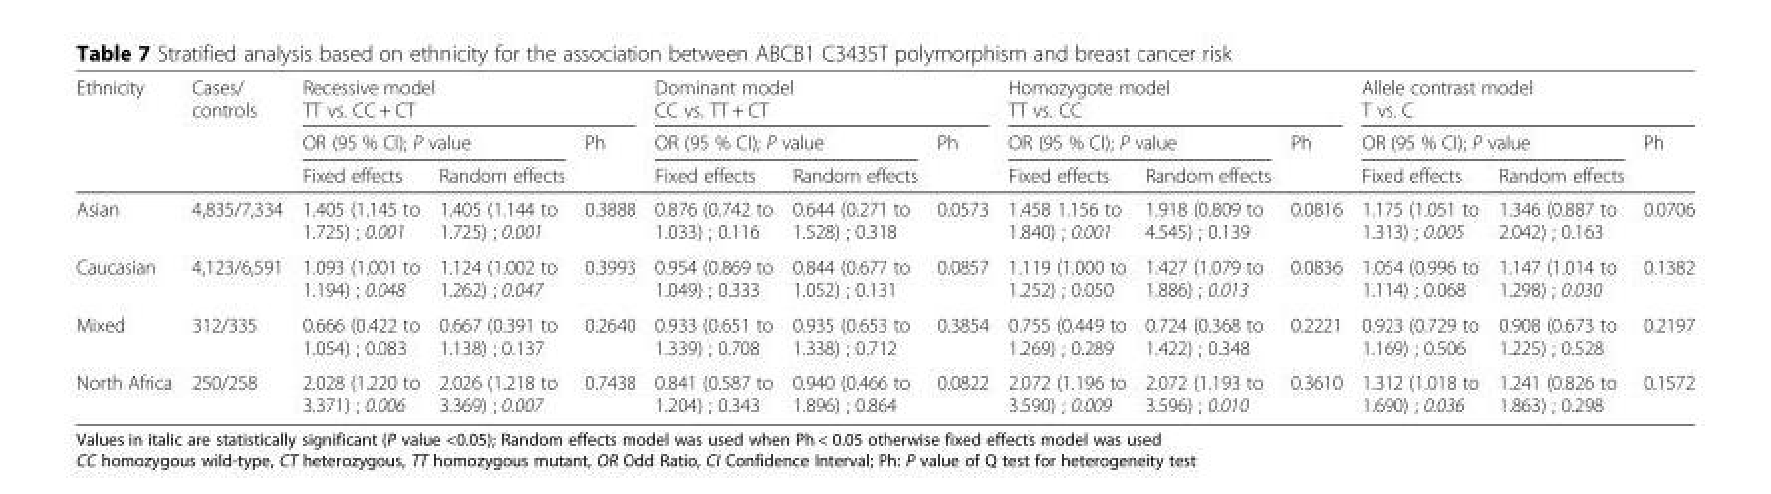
<table><thead><tr><td rowspan="3">Ethnicity</td><td rowspan="3">Cases/ controls</td><td colspan="3">Recessive model TT vs. CC + CT</td><td colspan="3">Dominant model CC vs. TT + CT</td><td colspan="3">Homozygote model TT vs. CC</td><td colspan="3">Allele contrast model T vs. C</td></tr><tr><td colspan="2">OR (95 % CI); P value</td><td rowspan="2">Ph</td><td colspan="2">OR (95 % CI); P value</td><td rowspan="2">Ph</td><td colspan="2">OR (95 % CI); P value</td><td rowspan="2">Ph</td><td colspan="2">OR (95 % CI); P value</td><td rowspan="2">Ph</td></tr><tr><td>Fixed effects</td><td>Random effects</td><td>Fixed effects</td><td>Random effects</td><td>Fixed effects</td><td>Random effects</td><td>Fixed effects</td><td>Random effects</td></tr></thead><tbody><tr><td>Asian</td><td>4,835/7,334</td><td>1.405 (1.145 to 1.725) ; 0.001</td><td>1.405 (1.144 to 1.725) ; 0.001</td><td>0.3888</td><td>0.876 (0.742 to 1.033) ; 0.116</td><td>0.644 (0.271 to 1.528) ; 0.318</td><td>0.0573</td><td>1.458 1.156 to 1.840) ; 0.001</td><td>1.918 (0.809 to 4.545) ; 0.139</td><td>0.0816</td><td>1.175 (1.051 to 1.313) ; 0.005</td><td>1.346 (0.887 to 2.042) ; 0.163</td><td>0.0706</td></tr><tr><td>Caucasian</td><td>4,123/6,591</td><td>1.093 (1.001 to 1.194) ; 0.048</td><td>1.124 (1.002 to 1.262) ; 0.047</td><td>0.3993</td><td>0.954 (0.869 to 1.049) ; 0.333</td><td>0.844 (0.677 to 1.052) ; 0.131</td><td>0.0857</td><td>1.119 (1.000 to 1.252) ; 0.050</td><td>1.427 (1.079 to 1.886) ; 0.013</td><td>0.0836</td><td>1.054 (0.996 to 1.114) ; 0.068</td><td>1.147 (1.014 to 1.298) ; 0.030</td><td>0.1382</td></tr><tr><td>Mixed</td><td>312/335</td><td>0.666 (0.422 to 1.054) ; 0.083</td><td>0.667 (0.391 to 1.138) ; 0.137</td><td>0.2640</td><td>0.933 (0.651 to 1.339) ; 0.708</td><td>0.935 (0.653 to 1.338) ; 0.712</td><td>0.3854</td><td>0.755 (0.449 to 1.269) ; 0.289</td><td>0.724 (0.368 to 1.422) ; 0.348</td><td>0.2221</td><td>0.923 (0.729 to 1.169) ; 0.506</td><td>0.908 (0.673 to 1.225) ; 0.528</td><td>0.2197</td></tr><tr><td>North Africa</td><td>250/258</td><td>2.028 (1.220 to 3.371) ; 0.006</td><td>2.026 (1.218 to 3.369) ; 0.007</td><td>0.7438</td><td>0.841 (0.587 to 1.204) ; 0.343</td><td>0.940 (0.466 to 1.896) ; 0.864</td><td>0.0822</td><td>2.072 (1.196 to 3.590) ; 0.009</td><td>2.072 (1.193 to 3.596) ; 0.010</td><td>0.3610</td><td>1.312 (1.018 to 1.690) ; 0.036</td><td>1.241 (0.826 to 1.863) ; 0.298</td><td>0.1572</td></tr></tbody></table>